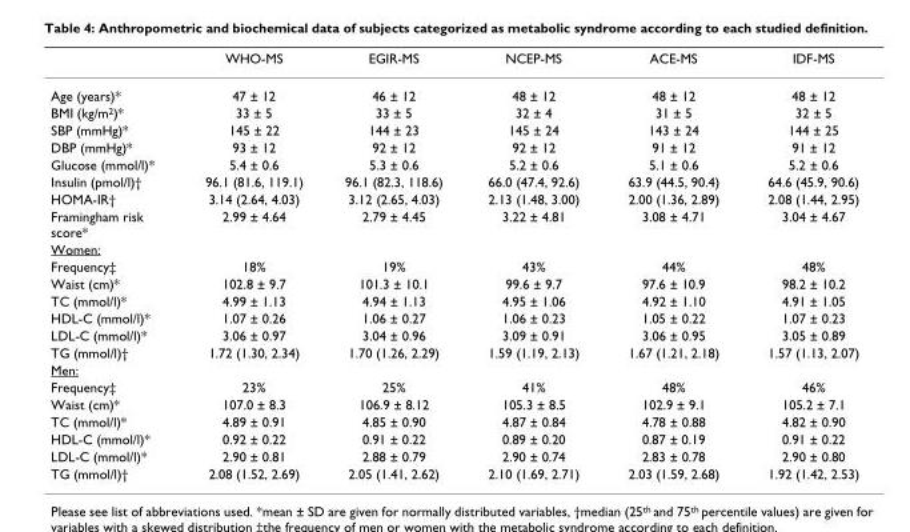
<table><thead><tr><td></td><td>WHO-MS</td><td>EGIR-MS</td><td>NCEP-MS</td><td>ACE-MS</td><td>IDF-MS</td></tr></thead><tbody><tr><td>Age (years)*</td><td>47 ± 12</td><td>46 ± 12</td><td>48 ± 12</td><td>48 ± 12</td><td>48 ± 12</td></tr><tr><td>BMI (kg/m<sup>2</sup>)*</td><td>33 ± 5</td><td>33 ± 5</td><td>32 ± 4</td><td>31 ± 5</td><td>32 ± 5</td></tr><tr><td>SBP (mmHg)*</td><td>145 ± 22</td><td>144 ± 23</td><td>145 ± 24</td><td>143 ± 24</td><td>144 ± 25</td></tr><tr><td>DBP (mmHg)*</td><td>93 ± 12</td><td>92 ± 12</td><td>92 ± 12</td><td>91 ± 12</td><td>91 ± 12</td></tr><tr><td>Glucose (mmol/l)*</td><td>5.4 ± 0.6</td><td>5.3 ± 0.6</td><td>5.2 ± 0.6</td><td>5.1 ± 0.6</td><td>5.2 ± 0.6</td></tr><tr><td>Insulin (pmol/l)†</td><td>96.1 (81.6, 119.1)</td><td>96.1 (82.3, 118.6)</td><td>66.0 (47.4, 92.6)</td><td>63.9 (44.5, 90.4)</td><td>64.6 (45.9, 90.6)</td></tr><tr><td>HOMA-IR†</td><td>3.14 (2.64, 4.03)</td><td>3.12 (2.65, 4.03)</td><td>2.13 (1.48, 3.00)</td><td>2.00 (1.36, 2.89)</td><td>2.08 (1.44, 2.95)</td></tr><tr><td>Framingham risk score*</td><td>2.99 ± 4.64</td><td>2.79 ± 4.45</td><td>3.22 ± 4.81</td><td>3.08 ± 4.71</td><td>3.04 ± 4.67</td></tr><tr><td colspan="6">Women:</td></tr><tr><td>Frequency‡</td><td>18%</td><td>19%</td><td>43%</td><td>44%</td><td>48%</td></tr><tr><td>Waist (cm)*</td><td>102.8 ± 9.7</td><td>101.3 ± 10.1</td><td>99.6 ± 9.7</td><td>97.6 ± 10.9</td><td>98.2 ± 10.2</td></tr><tr><td>TC (mmol/l)*</td><td>4.99 ± 1.13</td><td>4.94 ± 1.13</td><td>4.95 ± 1.06</td><td>4.92 ± 1.10</td><td>4.91 ± 1.05</td></tr><tr><td>HDL-C (mmol/l)*</td><td>1.07 ± 0.26</td><td>1.06 ± 0.27</td><td>1.06 ± 0.23</td><td>1.05 ± 0.22</td><td>1.07 ± 0.23</td></tr><tr><td>LDL-C (mmol/l)*</td><td>3.06 ± 0.97</td><td>3.04 ± 0.96</td><td>3.09 ± 0.91</td><td>3.06 ± 0.95</td><td>3.05 ± 0.89</td></tr><tr><td>TG (mmol/l)†</td><td>1.72 (1.30, 2.34)</td><td>1.70 (1.26, 2.29)</td><td>1.59 (1.19, 2.13)</td><td>1.67 (1.21, 2.18)</td><td>1.57 (1.13, 2.07)</td></tr><tr><td colspan="6">Men:</td></tr><tr><td>Frequency‡</td><td>23%</td><td>25%</td><td>41%</td><td>48%</td><td>46%</td></tr><tr><td>Waist (cm)*</td><td>107.0 ± 8.3</td><td>106.9 ± 8.12</td><td>105.3 ± 8.5</td><td>102.9 ± 9.1</td><td>105.2 ± 7.1</td></tr><tr><td>TC (mmol/l)*</td><td>4.89 ± 0.91</td><td>4.85 ± 0.90</td><td>4.87 ± 0.84</td><td>4.78 ± 0.88</td><td>4.82 ± 0.90</td></tr><tr><td>HDL-C (mmol/l)*</td><td>0.92 ± 0.22</td><td>0.91 ± 0.22</td><td>0.89 ± 0.20</td><td>0.87 ± 0.19</td><td>0.91 ± 0.22</td></tr><tr><td>LDL-C (mmol/l)*</td><td>2.90 ± 0.81</td><td>2.88 ± 0.79</td><td>2.90 ± 0.74</td><td>2.83 ± 0.78</td><td>2.90 ± 0.80</td></tr><tr><td>TG (mmol/l)†</td><td>2.08 (1.52, 2.69)</td><td>2.05 (1.41, 2.62)</td><td>2.10 (1.69, 2.71)</td><td>2.03 (1.59, 2.68)</td><td>1.92 (1.42, 2.53)</td></tr></tbody></table>